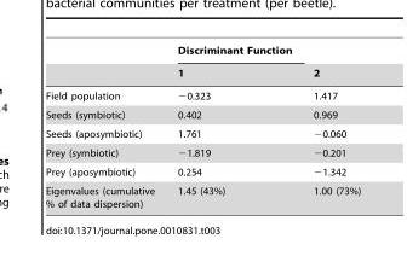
<table><thead><tr><td rowspan="2"></td><td rowspan="2">Discriminant Function 1</td><td rowspan="2">2</td></tr><tr></tr></thead><tbody><tr><td>Field population</td><td>−0.323</td><td>1.417</td></tr><tr><td>Seeds (symbiotic)</td><td>0.402</td><td>0.969</td></tr><tr><td>Seeds (aposymbiotic)</td><td>1.761</td><td>−0.060</td></tr><tr><td>Prey (symbiotic)</td><td>−1.819</td><td>−0.201</td></tr><tr><td>Prey (aposymbiotic)</td><td>0.254</td><td>−1.342</td></tr><tr><td>Eigenvalues (cumulative % of data dispersion)</td><td>1.45 (43%)</td><td>1.00 (73%)</td></tr></tbody></table>